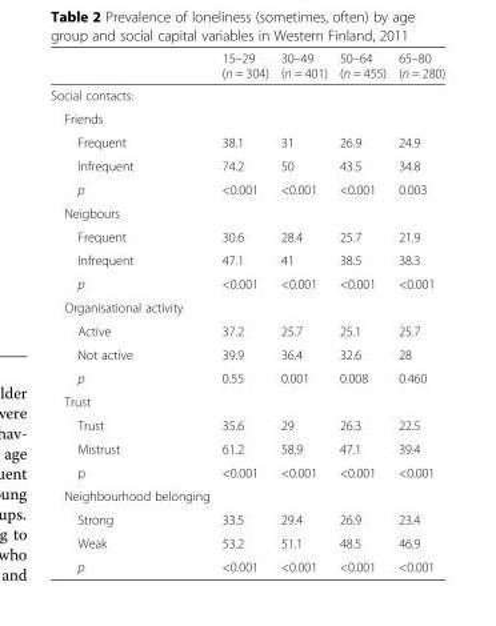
<table><thead><tr><td></td><td>15–29 (n = 304)</td><td>30–49 (n = 401)</td><td>50–64 (n = 455)</td><td>65–80 (n = 280)</td></tr></thead><tbody><tr><td colspan="5">Social contacts:</td></tr><tr><td colspan="5">Friends</td></tr><tr><td>Frequent</td><td>38.1</td><td>31</td><td>26.9</td><td>24.9</td></tr><tr><td>Infrequent</td><td>74.2</td><td>50</td><td>43.5</td><td>34.8</td></tr><tr><td>p</td><td>&lt;0.001</td><td>&lt;0.001</td><td>&lt;0.001</td><td>0.003</td></tr><tr><td colspan="5">Neigbours</td></tr><tr><td>Frequent</td><td>30.6</td><td>28.4</td><td>25.7</td><td>21.9</td></tr><tr><td>Infrequent</td><td>47.1</td><td>41</td><td>38.5</td><td>38.3</td></tr><tr><td>p</td><td>&lt;0.001</td><td>&lt;0.001</td><td>&lt;0.001</td><td>&lt;0.001</td></tr><tr><td colspan="5">Organisational activity</td></tr><tr><td>Active</td><td>37.2</td><td>25.7</td><td>25.1</td><td>25.7</td></tr><tr><td>Not active</td><td>39.9</td><td>36.4</td><td>32.6</td><td>28</td></tr><tr><td>p</td><td>0.55</td><td>0.001</td><td>0.008</td><td>0.460</td></tr><tr><td colspan="5">Trust</td></tr><tr><td>Trust</td><td>35.6</td><td>29</td><td>26.3</td><td>22.5</td></tr><tr><td>Mistrust</td><td>61.2</td><td>58.9</td><td>47.1</td><td>39.4</td></tr><tr><td>p</td><td>&lt;0.001</td><td>&lt;0.001</td><td>&lt;0.001</td><td>&lt;0.001</td></tr><tr><td colspan="5">Neighbourhood belonging</td></tr><tr><td>Strong</td><td>33.5</td><td>29.4</td><td>26.9</td><td>23.4</td></tr><tr><td>Weak</td><td>53.2</td><td>51.1</td><td>48.5</td><td>46.9</td></tr><tr><td>p</td><td>&lt;0.001</td><td>&lt;0.001</td><td>&lt;0.001</td><td>&lt;0.001</td></tr></tbody></table>